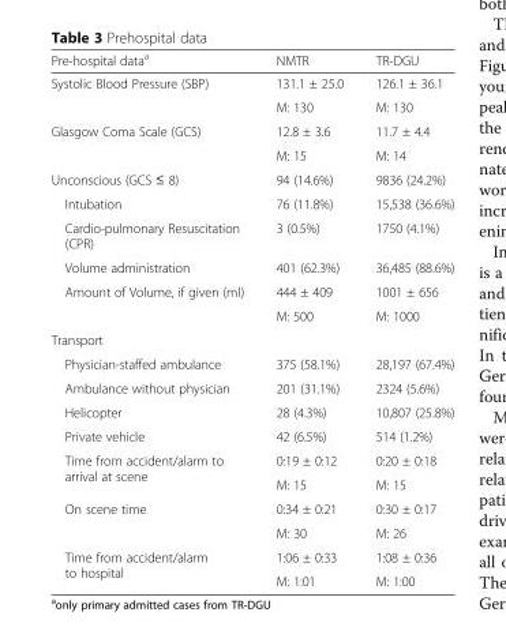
<table><thead><tr><td>Pre-hospital data<sup>a</sup></td><td>NMTR</td><td>TR-DGU</td></tr></thead><tbody><tr><td rowspan="2">Systolic Blood Pressure (SBP)</td><td>131.1 ± 25.0</td><td>126.1 ± 36.1</td></tr><tr><td>M: 130</td><td>M: 130</td></tr><tr><td rowspan="2">Glasgow Coma Scale (GCS)</td><td>12.8 ± 3.6</td><td>11.7 ± 4.4</td></tr><tr><td>M: 15</td><td>M: 14</td></tr><tr><td>Unconscious (GCS ≤ 8)</td><td>94 (14.6%)</td><td>9836 (24.2%)</td></tr><tr><td>Intubation</td><td>76 (11.8%)</td><td>15,538 (36.6%)</td></tr><tr><td>Cardio-pulmonary Resuscitation (CPR)</td><td>3 (0.5%)</td><td>1750 (4.1%)</td></tr><tr><td>Volume administration</td><td>401 (62.3%)</td><td>36,485 (88.6%)</td></tr><tr><td rowspan="2">Amount of Volume, if given (ml)</td><td>444 ± 409</td><td>1001 ± 656</td></tr><tr><td>M: 500</td><td>M: 1000</td></tr><tr><td colspan="3">Transport</td></tr><tr><td>Physician-staffed ambulance</td><td>375 (58.1%)</td><td>28,197 (67.4%)</td></tr><tr><td>Ambulance without physician</td><td>201 (31.1%)</td><td>2324 (5.6%)</td></tr><tr><td>Helicopter</td><td>28 (4.3%)</td><td>10,807 (25.8%)</td></tr><tr><td>Private vehicle</td><td>42 (6.5%)</td><td>514 (1.2%)</td></tr><tr><td rowspan="2">Time from accident/alarm to arrival at scene</td><td>0:19 ± 0:12</td><td>0:20 ± 0:18</td></tr><tr><td>M: 15</td><td>M: 15</td></tr><tr><td rowspan="2">On scene time</td><td>0:34 ± 0:21</td><td>0:30 ± 0:17</td></tr><tr><td>M: 30</td><td>M: 26</td></tr><tr><td rowspan="2">Time from accident/alarm to hospital</td><td>1:06 ± 0:33</td><td>1:08 ± 0:36</td></tr><tr><td>M: 1:01</td><td>M: 1:00</td></tr></tbody></table>